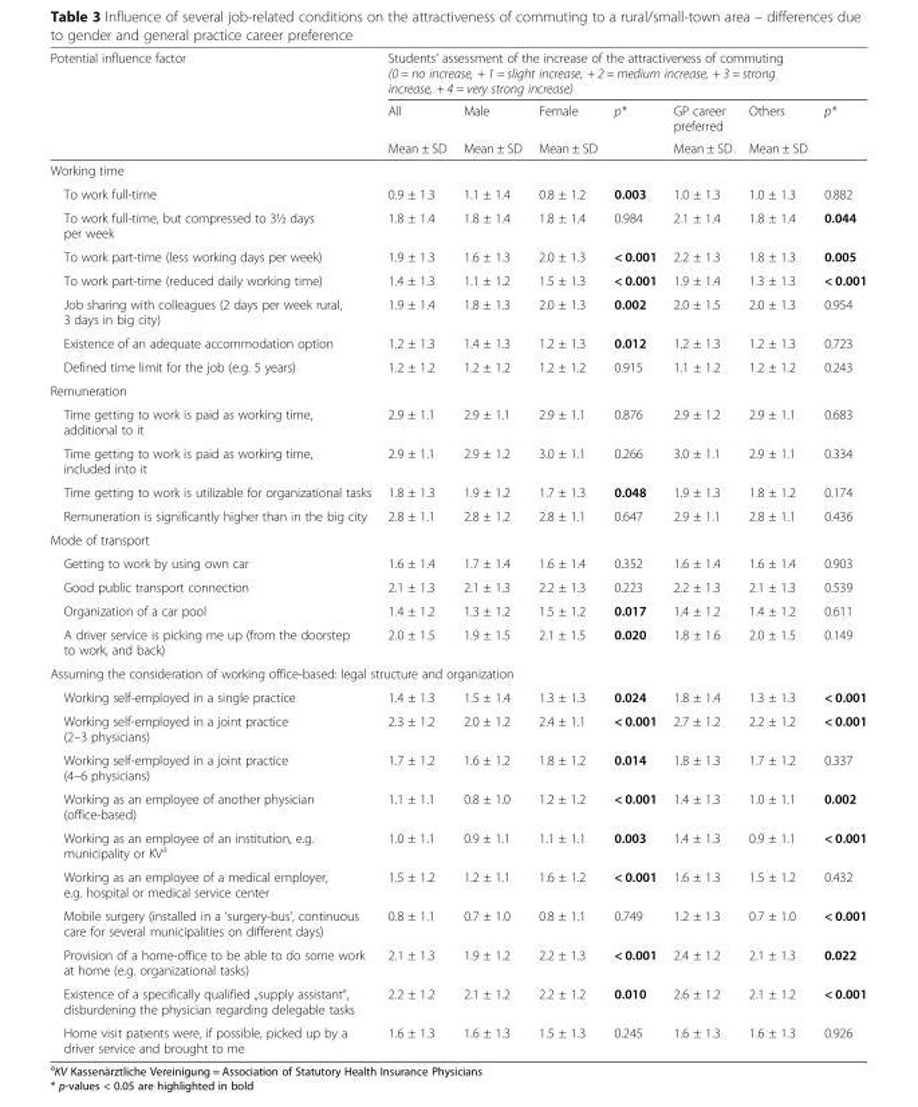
<table><thead><tr><td rowspan="3">Potential influence factor</td><td colspan="7">Students’ assessment of the increase of the attractiveness of commuting (0 = no increase, + 1 = slight increase, + 2 = medium increase, + 3 = strong increase, + 4 = very strong increase)</td></tr><tr><td rowspan="2">All Mean ± SD</td><td rowspan="2">Male Mean ± SD</td><td rowspan="2">Female Mean ± SD</td><td rowspan="2">p*</td><td rowspan="2">GP career preferred Mean ± SD</td><td rowspan="2">Others Mean ± SD</td><td rowspan="2">p*</td></tr><tr></tr></thead><tbody><tr><td colspan="8">Working time</td></tr><tr><td>To work full-time</td><td>0.9 ± 1.3</td><td>1.1 ± 1.4</td><td>0.8 ± 1.2</td><td>0.003</td><td>1.0 ± 1.3</td><td>1.0 ± 1.3</td><td>0.882</td></tr><tr><td>To work full-time, but compressed to 3½ days per week</td><td>1.8 ± 1.4</td><td>1.8 ± 1.4</td><td>1.8 ± 1.4</td><td>0.984</td><td>2.1 ± 1.4</td><td>1.8 ± 1.4</td><td>0.044</td></tr><tr><td>To work part-time (less working days per week)</td><td>1.9 ± 1.3</td><td>1.6 ± 1.3</td><td>2.0 ± 1.3</td><td>&lt; 0.001</td><td>2.2 ± 1.3</td><td>1.8 ± 1.3</td><td>0.005</td></tr><tr><td>To work part-time (reduced daily working time)</td><td>1.4 ± 1.3</td><td>1.1 ± 1.2</td><td>1.5 ± 1.3</td><td>&lt; 0.001</td><td>1.9 ± 1.4</td><td>1.3 ± 1.3</td><td>&lt; 0.001</td></tr><tr><td>Job sharing with colleagues (2 days per week rural, 3 days in big city)</td><td>1.9 ± 1.4</td><td>1.8 ± 1.3</td><td>2.0 ± 1.3</td><td>0.002</td><td>2.0 ± 1.5</td><td>2.0 ± 1.3</td><td>0.954</td></tr><tr><td>Existence of an adequate accommodation option</td><td>1.2 ± 1.3</td><td>1.4 ± 1.3</td><td>1.2 ± 1.3</td><td>0.012</td><td>1.2 ± 1.3</td><td>1.2 ± 1.3</td><td>0.723</td></tr><tr><td>Defined time limit for the job (e.g. 5 years)</td><td>1.2 ± 1.2</td><td>1.2 ± 1.2</td><td>1.2 ± 1.2</td><td>0.915</td><td>1.1 ± 1.2</td><td>1.2 ± 1.2</td><td>0.243</td></tr><tr><td colspan="8">Remuneration</td></tr><tr><td>Time getting to work is paid as working time, additional to it</td><td>2.9 ± 1.1</td><td>2.9 ± 1.1</td><td>2.9 ± 1.1</td><td>0.876</td><td>2.9 ± 1.2</td><td>2.9 ± 1.1</td><td>0.683</td></tr><tr><td>Time getting to work is paid as working time, included into it</td><td>2.9 ± 1.1</td><td>2.9 ± 1.2</td><td>3.0 ± 1.1</td><td>0.266</td><td>3.0 ± 1.1</td><td>2.9 ± 1.1</td><td>0.334</td></tr><tr><td>Time getting to work is utilizable for organizational tasks</td><td>1.8 ± 1.3</td><td>1.9 ± 1.2</td><td>1.7 ± 1.3</td><td>0.048</td><td>1.9 ± 1.3</td><td>1.8 ± 1.2</td><td>0.174</td></tr><tr><td>Remuneration is significantly higher than in the big city</td><td>2.8 ± 1.1</td><td>2.8 ± 1.2</td><td>2.8 ± 1.1</td><td>0.647</td><td>2.9 ± 1.1</td><td>2.8 ± 1.1</td><td>0.436</td></tr><tr><td colspan="8">Mode of transport</td></tr><tr><td>Getting to work by using own car</td><td>1.6 ± 1.4</td><td>1.7 ± 1.4</td><td>1.6 ± 1.4</td><td>0.352</td><td>1.6 ± 1.4</td><td>1.6 ± 1.4</td><td>0.903</td></tr><tr><td>Good public transport connection</td><td>2.1 ± 1.3</td><td>2.1 ± 1.3</td><td>2.2 ± 1.3</td><td>0.223</td><td>2.2 ± 1.3</td><td>2.1 ± 1.3</td><td>0.539</td></tr><tr><td>Organization of a car pool</td><td>1.4 ± 1.2</td><td>1.3 ± 1.2</td><td>1.5 ± 1.2</td><td>0.017</td><td>1.4 ± 1.2</td><td>1.4 ± 1.2</td><td>0.611</td></tr><tr><td>A driver service is picking me up (from the doorstep to work, and back)</td><td>2.0 ± 1.5</td><td>1.9 ± 1.5</td><td>2.1 ± 1.5</td><td>0.020</td><td>1.8 ± 1.6</td><td>2.0 ± 1.5</td><td>0.149</td></tr><tr><td colspan="8">Assuming the consideration of working office-based: legal structure and organization</td></tr><tr><td>Working self-employed in a single practice</td><td>1.4 ± 1.3</td><td>1.5 ± 1.4</td><td>1.3 ± 1.3</td><td>0.024</td><td>1.8 ± 1.4</td><td>1.3 ± 1.3</td><td>&lt; 0.001</td></tr><tr><td>Working self-employed in a joint practice (2–3 physicians)</td><td>2.3 ± 1.2</td><td>2.0 ± 1.2</td><td>2.4 ± 1.1</td><td>&lt; 0.001</td><td>2.7 ± 1.2</td><td>2.2 ± 1.2</td><td>&lt; 0.001</td></tr><tr><td>Working self-employed in a joint practice (4–6 physicians)</td><td>1.7 ± 1.2</td><td>1.6 ± 1.2</td><td>1.8 ± 1.2</td><td>0.014</td><td>1.8 ± 1.3</td><td>1.7 ± 1.2</td><td>0.337</td></tr><tr><td>Working as an employee of another physician (office-based)</td><td>1.1 ± 1.1</td><td>0.8 ± 1.0</td><td>1.2 ± 1.2</td><td>&lt; 0.001</td><td>1.4 ± 1.3</td><td>1.0 ± 1.1</td><td>0.002</td></tr><tr><td>Working as an employee of an institution, e.g. municipality or KV<sup>a</sup></td><td>1.0 ± 1.1</td><td>0.9 ± 1.1</td><td>1.1 ± 1.1</td><td>0.003</td><td>1.4 ± 1.3</td><td>0.9 ± 1.1</td><td>&lt; 0.001</td></tr><tr><td>Working as an employee of a medical employer, e.g. hospital or medical service center</td><td>1.5 ± 1.2</td><td>1.2 ± 1.1</td><td>1.6 ± 1.2</td><td>&lt; 0.001</td><td>1.6 ± 1.3</td><td>1.5 ± 1.2</td><td>0.432</td></tr><tr><td>Mobile surgery (installed in a ‘surgery-bus’, continuous care for several municipalities on different days)</td><td>0.8 ± 1.1</td><td>0.7 ± 1.0</td><td>0.8 ± 1.1</td><td>0.749</td><td>1.2 ± 1.3</td><td>0.7 ± 1.0</td><td>&lt; 0.001</td></tr><tr><td>Provision of a home-office to be able to do some work at home (e.g. organizational tasks)</td><td>2.1 ± 1.3</td><td>1.9 ± 1.2</td><td>2.2 ± 1.3</td><td>&lt; 0.001</td><td>2.4 ± 1.2</td><td>2.1 ± 1.3</td><td>0.022</td></tr><tr><td>Existence of a specifically qualified „supply assistant“, disburdening the physician regarding delegable tasks</td><td>2.2 ± 1.2</td><td>2.1 ± 1.2</td><td>2.2 ± 1.2</td><td>0.010</td><td>2.6 ± 1.2</td><td>2.1 ± 1.2</td><td>&lt; 0.001</td></tr><tr><td>Home visit patients were, if possible, picked up by a driver service and brought to me</td><td>1.6 ± 1.3</td><td>1.6 ± 1.3</td><td>1.5 ± 1.3</td><td>0.245</td><td>1.6 ± 1.3</td><td>1.6 ± 1.3</td><td>0.926</td></tr></tbody></table>